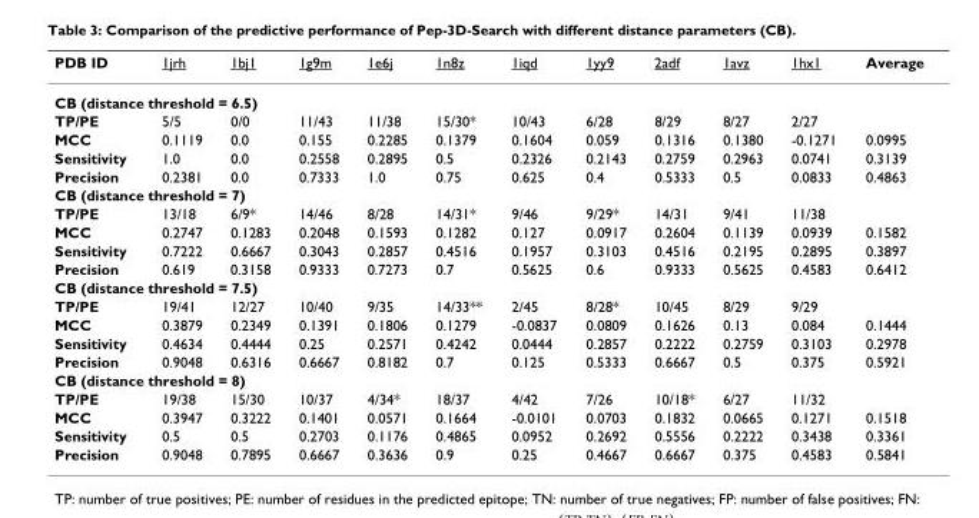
<table><thead><tr><td>PDB ID</td><td>1jrh</td><td>1bj1</td><td>1g9m</td><td>1e6j</td><td>1n8z</td><td>1iqd</td><td>1yy9</td><td>2adf</td><td>1avz</td><td>1hx1</td><td>Average</td></tr></thead><tbody><tr><td colspan="12">CB (distance threshold = 6.5)</td></tr><tr><td>TP/PE</td><td>5/5</td><td>0/0</td><td>11/43</td><td>11/38</td><td>15/30*</td><td>10/43</td><td>6/28</td><td>8/29</td><td>8/27</td><td>2/27</td><td></td></tr><tr><td>MCC</td><td>0.1119</td><td>0.0</td><td>0.155</td><td>0.2285</td><td>0.1379</td><td>0.1604</td><td>0.059</td><td>0.1316</td><td>0.1380</td><td>-0.1271</td><td>0.0995</td></tr><tr><td>Sensitivity</td><td>1.0</td><td>0.0</td><td>0.2558</td><td>0.2895</td><td>0.5</td><td>0.2326</td><td>0.2143</td><td>0.2759</td><td>0.2963</td><td>0.0741</td><td>0.3139</td></tr><tr><td>Precision</td><td>0.2381</td><td>0.0</td><td>0.7333</td><td>1.0</td><td>0.75</td><td>0.625</td><td>0.4</td><td>0.5333</td><td>0.5</td><td>0.0833</td><td>0.4863</td></tr><tr><td colspan="12">CB (distance threshold = 7)</td></tr><tr><td>TP/PE</td><td>13/18</td><td>6/9*</td><td>14/46</td><td>8/28</td><td>14/31*</td><td>9/46</td><td>9/29*</td><td>14/31</td><td>9/41</td><td>11/38</td><td></td></tr><tr><td>MCC</td><td>0.2747</td><td>0.1283</td><td>0.2048</td><td>0.1593</td><td>0.1282</td><td>0.127</td><td>0.0917</td><td>0.2604</td><td>0.1139</td><td>0.0939</td><td>0.1582</td></tr><tr><td>Sensitivity</td><td>0.7222</td><td>0.6667</td><td>0.3043</td><td>0.2857</td><td>0.4516</td><td>0.1957</td><td>0.3103</td><td>0.4516</td><td>0.2195</td><td>0.2895</td><td>0.3897</td></tr><tr><td>Precision</td><td>0.619</td><td>0.3158</td><td>0.9333</td><td>0.7273</td><td>0.7</td><td>0.5625</td><td>0.6</td><td>0.9333</td><td>0.5625</td><td>0.4583</td><td>0.6412</td></tr><tr><td colspan="12">CB (distance threshold = 7.5)</td></tr><tr><td>TP/PE</td><td>19/41</td><td>12/27</td><td>10/40</td><td>9/35</td><td>14/33**</td><td>2/45</td><td>8/28*</td><td>10/45</td><td>8/29</td><td>9/29</td><td></td></tr><tr><td>MCC</td><td>0.3879</td><td>0.2349</td><td>0.1391</td><td>0.1806</td><td>0.1279</td><td>-0.0837</td><td>0.0809</td><td>0.1626</td><td>0.13</td><td>0.084</td><td>0.1444</td></tr><tr><td>Sensitivity</td><td>0.4634</td><td>0.4444</td><td>0.25</td><td>0.2571</td><td>0.4242</td><td>0.0444</td><td>0.2857</td><td>0.2222</td><td>0.2759</td><td>0.3103</td><td>0.2978</td></tr><tr><td>Precision</td><td>0.9048</td><td>0.6316</td><td>0.6667</td><td>0.8182</td><td>0.7</td><td>0.125</td><td>0.5333</td><td>0.6667</td><td>0.5</td><td>0.375</td><td>0.5921</td></tr><tr><td colspan="12">CB (distance threshold = 8)</td></tr><tr><td>TP/PE</td><td>19/38</td><td>15/30</td><td>10/37</td><td>4/34*</td><td>18/37</td><td>4/42</td><td>7/26</td><td>10/18*</td><td>6/27</td><td>11/32</td><td></td></tr><tr><td>MCC</td><td>0.3947</td><td>0.3222</td><td>0.1401</td><td>0.0571</td><td>0.1664</td><td>-0.0101</td><td>0.0703</td><td>0.1832</td><td>0.0665</td><td>0.1271</td><td>0.1518</td></tr><tr><td>Sensitivity</td><td>0.5</td><td>0.5</td><td>0.2703</td><td>0.1176</td><td>0.4865</td><td>0.0952</td><td>0.2692</td><td>0.5556</td><td>0.2222</td><td>0.3438</td><td>0.3361</td></tr><tr><td>Precision</td><td>0.9048</td><td>0.7895</td><td>0.6667</td><td>0.3636</td><td>0.9</td><td>0.25</td><td>0.4667</td><td>0.6667</td><td>0.375</td><td>0.4583</td><td>0.5841</td></tr></tbody></table>